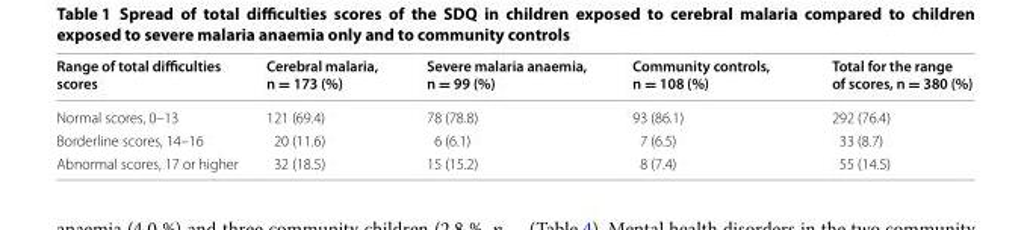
<table><thead><tr><td>Range of total difficulties scores</td><td>Cerebral malaria, n = 173 (%)</td><td>Severe malaria anaemia, n = 99 (%)</td><td>Community controls, n = 108 (%)</td><td>Total for the range of scores, n = 380 (%)</td></tr></thead><tbody><tr><td>Normal scores, 0–13</td><td>121 (69.4)</td><td>78 (78.8)</td><td>93 (86.1)</td><td>292 (76.4)</td></tr><tr><td>Borderline scores, 14–16</td><td>20 (11.6)</td><td>6 (6.1)</td><td>7 (6.5)</td><td>33 (8.7)</td></tr><tr><td>Abnormal scores, 17 or higher</td><td>32 (18.5)</td><td>15 (15.2)</td><td>8 (7.4)</td><td>55 (14.5)</td></tr></tbody></table>